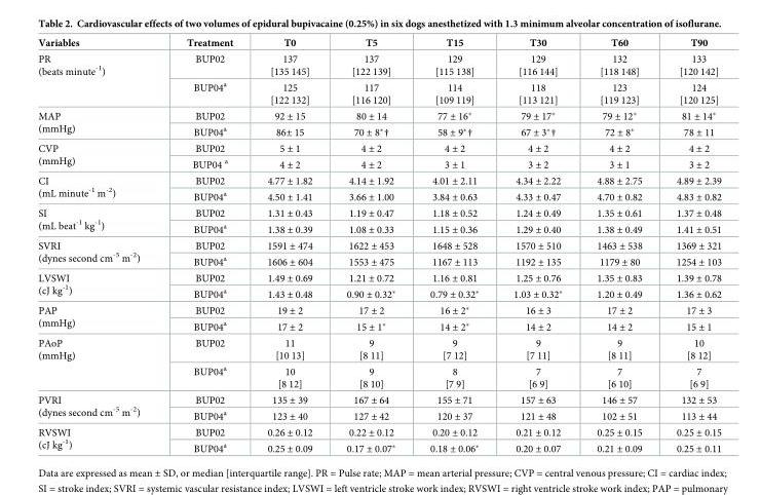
<table><thead><tr><td>Variables</td><td>Treatment</td><td>T0</td><td>T5</td><td>T15</td><td>T30</td><td>T60</td><td>T90</td></tr></thead><tbody><tr><td rowspan="2">PR (beats minute<sup>-1</sup>)</td><td>BUP02</td><td>137 [135 145]</td><td>137 [122 139]</td><td>129 [115 138]</td><td>129 [116 144]</td><td>132 [118 148]</td><td>133 [120 142]</td></tr><tr><td>BUP04<sup>a</sup></td><td>125 [122 132]</td><td>117 [116 120]</td><td>114 [109 119]</td><td>118 [113 121]</td><td>123 [119 123]</td><td>124 [120 125]</td></tr><tr><td rowspan="2">MAP (mmHg)</td><td>BUP02</td><td>92 ± 15</td><td>80 ± 14</td><td>77 ± 16*</td><td>79 ± 17*</td><td>79 ± 12*</td><td>81 ± 14*</td></tr><tr><td>BUP04<sup>a</sup></td><td>86± 15</td><td>70 ± 8*†</td><td>58 ± 9*†</td><td>67 ± 3*†</td><td>72 ± 8*</td><td>78 ± 11</td></tr><tr><td rowspan="2">CVP (mmHg)</td><td>BUP02</td><td>5 ± 1</td><td>4 ± 2</td><td>4 ± 2</td><td>4 ± 2</td><td>4 ± 2</td><td>4 ± 2</td></tr><tr><td>BUP04 <sup>a</sup></td><td>4 ± 2</td><td>4 ± 2</td><td>3 ± 1</td><td>3 ± 2</td><td>3 ± 1</td><td>3 ± 2</td></tr><tr><td rowspan="2">CI (mL minute<sup>-1</sup> m<sup>-2</sup>)</td><td>BUP02</td><td>4.77 ± 1.82</td><td>4.14 ± 1.92</td><td>4.01 ± 2.11</td><td>4.34 ± 2.22</td><td>4.88 ± 2.75</td><td>4.89 ± 2.39</td></tr><tr><td>BUP04<sup>a</sup></td><td>4.50 ± 1.41</td><td>3.66 ± 1.00</td><td>3.84 ± 0.63</td><td>4.33 ± 0.47</td><td>4.70 ± 0.82</td><td>4.83 ± 0.82</td></tr><tr><td rowspan="2">SI (mL beat<sup>-1</sup> kg<sup>-1</sup>)</td><td>BUP02</td><td>1.31 ± 0.43</td><td>1.19 ± 0.47</td><td>1.18 ± 0.52</td><td>1.24 ± 0.49</td><td>1.35 ± 0.61</td><td>1.37 ± 0.48</td></tr><tr><td>BUP04<sup>a</sup></td><td>1.38 ± 0.39</td><td>1.08 ± 0.33</td><td>1.15 ± 0.36</td><td>1.29 ± 0.40</td><td>1.38 ± 0.49</td><td>1.41 ± 0.51</td></tr><tr><td rowspan="2">SVRI (dynes second cm<sup>-5</sup> m<sup>-2</sup>)</td><td>BUP02</td><td>1591 ± 474</td><td>1622 ± 453</td><td>1648 ± 528</td><td>1570 ± 510</td><td>1463 ± 538</td><td>1369 ± 321</td></tr><tr><td>BUP04<sup>a</sup></td><td>1606 ± 604</td><td>1553 ± 475</td><td>1167 ± 113</td><td>1192 ± 135</td><td>1179 ± 80</td><td>1254 ± 103</td></tr><tr><td rowspan="2">LVSWI (cJ kg<sup>-1</sup>)</td><td>BUP02</td><td>1.49 ± 0.69</td><td>1.21 ± 0.72</td><td>1.16 ± 0.81</td><td>1.25 ± 0.76</td><td>1.35 ± 0.83</td><td>1.39 ± 0.78</td></tr><tr><td>BUP04<sup>a</sup></td><td>1.43 ± 0.48</td><td>0.90 ± 0.32*</td><td>0.79 ± 0.32*</td><td>1.03 ± 0.32*</td><td>1.20 ± 0.49</td><td>1.36 ± 0.62</td></tr><tr><td rowspan="2">PAP (mmHg)</td><td>BUP02</td><td>19 ± 2</td><td>17 ± 2</td><td>16 ± 2*</td><td>16 ± 3</td><td>17 ± 2</td><td>17 ± 3</td></tr><tr><td>BUP04<sup>a</sup></td><td>17 ± 2</td><td>15 ± 1*</td><td>14 ± 2*</td><td>14 ± 2</td><td>14 ± 2</td><td>15 ± 1</td></tr><tr><td rowspan="2">PAoP (mmHg)</td><td>BUP02</td><td>11 [10 13]</td><td>9 [8 11]</td><td>9 [7 12]</td><td>9 [7 11]</td><td>9 [8 11]</td><td>10 [8 12]</td></tr><tr><td>BUP04<sup>a</sup></td><td>10 [8 12]</td><td>9 [8 10]</td><td>8 [7 9]</td><td>7 [6 9]</td><td>7 [6 10]</td><td>7 [6 9]</td></tr><tr><td rowspan="2">PVRI (dynes second cm<sup>-5</sup> m<sup>-2</sup>)</td><td>BUP02</td><td>135 ± 39</td><td>167 ± 64</td><td>155 ± 71</td><td>157 ± 63</td><td>146 ± 57</td><td>132 ± 53</td></tr><tr><td>BUP04<sup>a</sup></td><td>123 ± 40</td><td>127 ± 42</td><td>120 ± 37</td><td>121 ± 48</td><td>102 ± 51</td><td>113 ± 44</td></tr><tr><td rowspan="2">RVSWI (cJ kg<sup>-1</sup>)</td><td>BUP02</td><td>0.26 ± 0.12</td><td>0.22 ± 0.12</td><td>0.20 ± 0.12</td><td>0.21 ± 0.12</td><td>0.25 ± 0.15</td><td>0.25 ± 0.15</td></tr><tr><td>BUP04<sup>a</sup></td><td>0.25 ± 0.09</td><td>0.17 ± 0.07*</td><td>0.18 ± 0.06*</td><td>0.20 ± 0.07</td><td>0.21 ± 0.09</td><td>0.25 ± 0.11</td></tr></tbody></table>